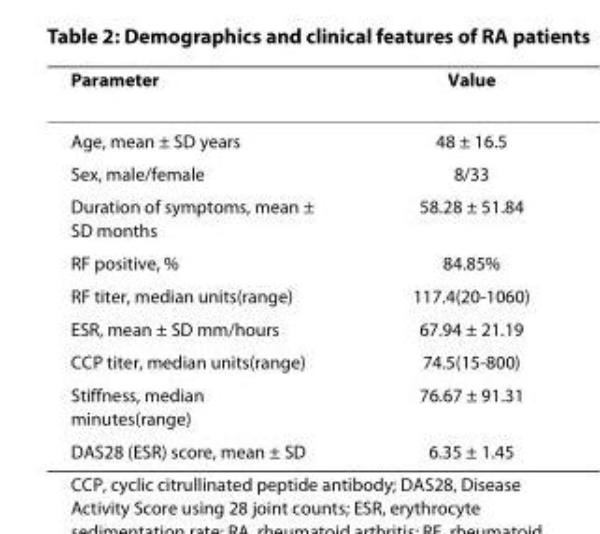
<table><thead><tr><td>Parameter</td><td>Value</td></tr></thead><tbody><tr><td>Age, mean ± SD years</td><td>48 ± 16.5</td></tr><tr><td>Sex, male/female</td><td>8/33</td></tr><tr><td>Duration of symptoms, mean ± SD months</td><td>58.28 ± 51.84</td></tr><tr><td>RF positive, %</td><td>84.85%</td></tr><tr><td>RF titer, median units(range)</td><td>117.4(20-1060)</td></tr><tr><td>ESR, mean ± SD mm/hours</td><td>67.94 ± 21.19</td></tr><tr><td>CCP titer, median units(range)</td><td>74.5(15-800)</td></tr><tr><td>Stiffness, median minutes(range)</td><td>76.67 ± 91.31</td></tr><tr><td>DAS28 (ESR) score, mean ± SD</td><td>6.35 ± 1.45</td></tr></tbody></table>